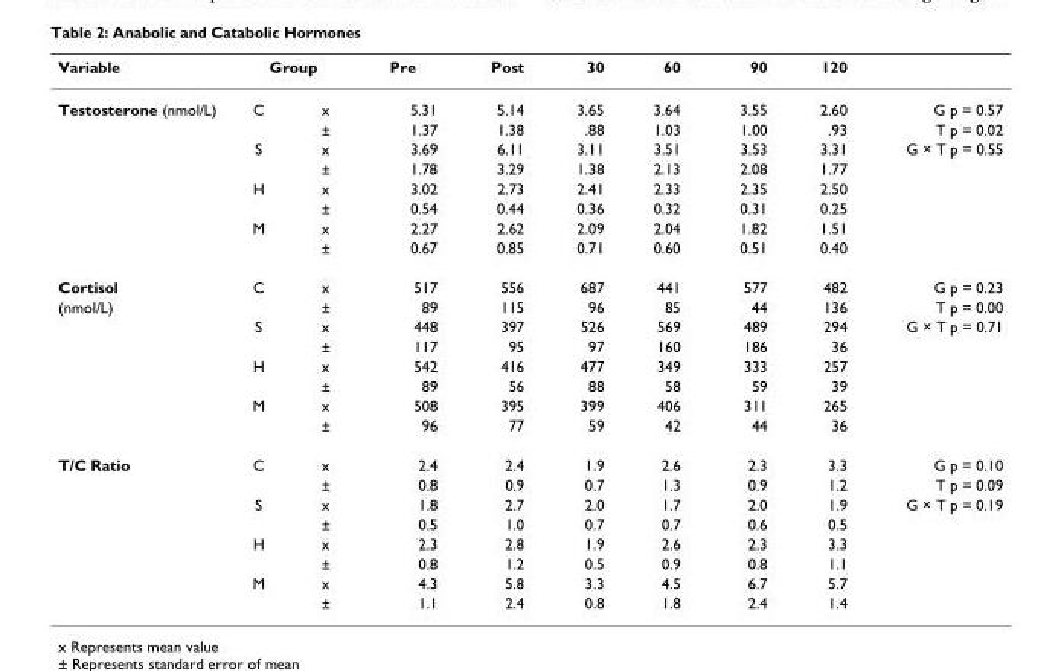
<table><thead><tr><td rowspan="2">Variable Testosterone (nmol/L)</td><td colspan="2">Group</td><td rowspan="2">Pre 5.31</td><td rowspan="2">Post 5.14</td><td rowspan="2">30 3.65</td><td rowspan="2">60 3.64</td><td rowspan="2">90 3.55</td><td rowspan="2">120 2.60</td><td rowspan="2">G p = 0.57</td></tr><tr><td>C</td><td>x</td></tr></thead><tbody><tr><td></td><td></td><td>±</td><td>1.37</td><td>1.38</td><td>.88</td><td>1.03</td><td>1.00</td><td>.93</td><td>T p = 0.02</td></tr><tr><td></td><td>S</td><td>x</td><td>3.69</td><td>6.11</td><td>3.11</td><td>3.51</td><td>3.53</td><td>3.31</td><td>G × T p = 0.55</td></tr><tr><td></td><td></td><td>±</td><td>1.78</td><td>3.29</td><td>1.38</td><td>2.13</td><td>2.08</td><td>1.77</td><td></td></tr><tr><td></td><td>H</td><td>x</td><td>3.02</td><td>2.73</td><td>2.41</td><td>2.33</td><td>2.35</td><td>2.50</td><td></td></tr><tr><td></td><td></td><td>±</td><td>0.54</td><td>0.44</td><td>0.36</td><td>0.32</td><td>0.31</td><td>0.25</td><td></td></tr><tr><td></td><td>M</td><td>x</td><td>2.27</td><td>2.62</td><td>2.09</td><td>2.04</td><td>1.82</td><td>1.51</td><td></td></tr><tr><td></td><td></td><td>±</td><td>0.67</td><td>0.85</td><td>0.71</td><td>0.60</td><td>0.51</td><td>0.40</td><td></td></tr><tr><td>Cortisol</td><td>C</td><td>x</td><td>517</td><td>556</td><td>687</td><td>441</td><td>577</td><td>482</td><td>G p = 0.23</td></tr><tr><td rowspan="7">(nmol/L)</td><td></td><td>±</td><td>89</td><td>115</td><td>96</td><td>85</td><td>44</td><td>136</td><td>T p = 0.00</td></tr><tr><td>S</td><td>x</td><td>448</td><td>397</td><td>526</td><td>569</td><td>489</td><td>294</td><td>G × T p = 0.71</td></tr><tr><td></td><td>±</td><td>117</td><td>95</td><td>97</td><td>160</td><td>186</td><td>36</td><td></td></tr><tr><td>H</td><td>x</td><td>542</td><td>416</td><td>477</td><td>349</td><td>333</td><td>257</td><td></td></tr><tr><td></td><td>±</td><td>89</td><td>56</td><td>88</td><td>58</td><td>59</td><td>39</td><td></td></tr><tr><td>M</td><td>x</td><td>508</td><td>395</td><td>399</td><td>406</td><td>311</td><td>265</td><td></td></tr><tr><td></td><td>±</td><td>96</td><td>77</td><td>59</td><td>42</td><td>44</td><td>36</td><td></td></tr><tr><td rowspan="8">T/C Ratio</td><td>C</td><td>x</td><td>2.4</td><td>2.4</td><td>1.9</td><td>2.6</td><td>2.3</td><td>3.3</td><td>G p = 0.10</td></tr><tr><td></td><td>±</td><td>0.8</td><td>0.9</td><td>0.7</td><td>1.3</td><td>0.9</td><td>1.2</td><td>T p = 0.09</td></tr><tr><td>S</td><td>x</td><td>1.8</td><td>2.7</td><td>2.0</td><td>1.7</td><td>2.0</td><td>1.9</td><td>G × T p = 0.19</td></tr><tr><td></td><td>±</td><td>0.5</td><td>1.0</td><td>0.7</td><td>0.7</td><td>0.6</td><td>0.5</td><td></td></tr><tr><td>H</td><td>x</td><td>2.3</td><td>2.8</td><td>1.9</td><td>2.6</td><td>2.3</td><td>3.3</td><td></td></tr><tr><td></td><td>±</td><td>0.8</td><td>1.2</td><td>0.5</td><td>0.9</td><td>0.8</td><td>1.1</td><td></td></tr><tr><td>M</td><td>x</td><td>4.3</td><td>5.8</td><td>3.3</td><td>4.5</td><td>6.7</td><td>5.7</td><td></td></tr><tr><td></td><td>±</td><td>1.1</td><td>2.4</td><td>0.8</td><td>1.8</td><td>2.4</td><td>1.4</td><td></td></tr></tbody></table>